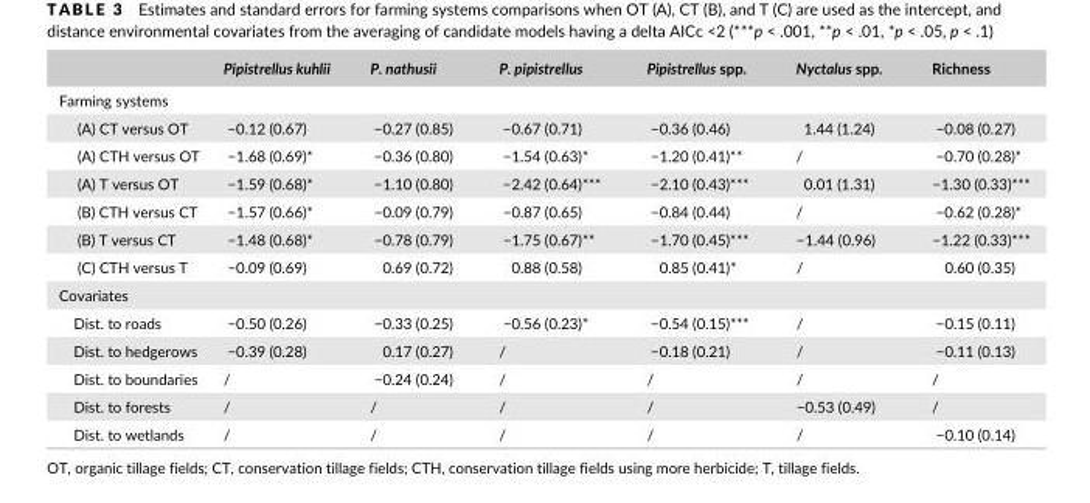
<table><thead><tr><td></td><td>Pipistrellus kuhlii</td><td>P. nathusii</td><td>P. pipistrellus</td><td>Pipistrellus spp.</td><td>Nyctalus spp.</td><td>Richness</td></tr></thead><tbody><tr><td colspan="7">Farming systems</td></tr><tr><td>(A) CT versus OT</td><td>−0.12 (0.67)</td><td>−0.27 (0.85)</td><td>−0.67 (0.71)</td><td>−0.36 (0.46)</td><td>1.44 (1.24)</td><td>−0.08 (0.27)</td></tr><tr><td>(A) CTH versus OT</td><td>−1.68 (0.69)*</td><td>−0.36 (0.80)</td><td>−1.54 (0.63)*</td><td>−1.20 (0.41)**</td><td>/</td><td>−0.70 (0.28)*</td></tr><tr><td>(A) T versus OT</td><td>−1.59 (0.68)*</td><td>−1.10 (0.80)</td><td>−2.42 (0.64)***</td><td>−2.10 (0.43)***</td><td>0.01 (1.31)</td><td>−1.30 (0.33)***</td></tr><tr><td>(B) CTH versus CT</td><td>−1.57 (0.66)*</td><td>−0.09 (0.79)</td><td>−0.87 (0.65)</td><td>−0.84 (0.44)</td><td>/</td><td>−0.62 (0.28)*</td></tr><tr><td>(B) T versus CT</td><td>−1.48 (0.68)*</td><td>−0.78 (0.79)</td><td>−1.75 (0.67)**</td><td>−1.70 (0.45)***</td><td>−1.44 (0.96)</td><td>−1.22 (0.33)***</td></tr><tr><td>(C) CTH versus T</td><td>−0.09 (0.69)</td><td>0.69 (0.72)</td><td>0.88 (0.58)</td><td>0.85 (0.41)*</td><td>/</td><td>0.60 (0.35)</td></tr><tr><td colspan="7">Covariates</td></tr><tr><td>Dist. to roads</td><td>−0.50 (0.26)</td><td>−0.33 (0.25)</td><td>−0.56 (0.23)*</td><td>−0.54 (0.15)***</td><td>/</td><td>−0.15 (0.11)</td></tr><tr><td>Dist. to hedgerows</td><td>−0.39 (0.28)</td><td>0.17 (0.27)</td><td>/</td><td>−0.18 (0.21)</td><td>/</td><td>−0.11 (0.13)</td></tr><tr><td>Dist. to boundaries</td><td>/</td><td>−0.24 (0.24)</td><td>/</td><td>/</td><td>/</td><td>/</td></tr><tr><td>Dist. to forests</td><td>/</td><td>/</td><td>/</td><td>/</td><td>−0.53 (0.49)</td><td>/</td></tr><tr><td>Dist. to wetlands</td><td>/</td><td>/</td><td>/</td><td>/</td><td>/</td><td>−0.10 (0.14)</td></tr></tbody></table>